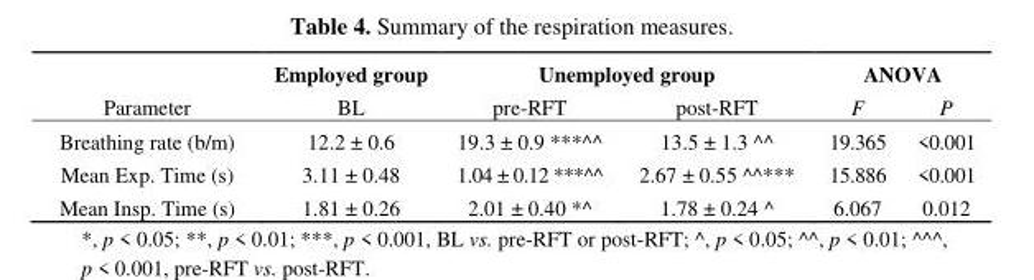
<table><thead><tr><td rowspan="2">Parameter</td><td rowspan="2">Employed group BL</td><td colspan="2">Unemployed group</td><td colspan="2">ANOVA</td></tr><tr><td>pre-RFT</td><td>post-RFT</td><td>F</td><td>P</td></tr></thead><tbody><tr><td>Breathing rate (b/m)</td><td>12.2 ± 0.6</td><td>19.3 ± 0.9 ***∧∧</td><td>13.5 ± 1.3 ∧∧</td><td>19.365</td><td>&lt;0.001</td></tr><tr><td>Mean Exp. Time (s)</td><td>3.11 ± 0.48</td><td>1.04 ± 0.12 ***∧∧</td><td>2.67 ± 0.55 ∧∧***</td><td>15.886</td><td>&lt;0.001</td></tr><tr><td>Mean Insp. Time (s)</td><td>1.81 ± 0.26</td><td>2.01 ± 0.40 *∧</td><td>1.78 ± 0.24 ∧</td><td>6.067</td><td>0.012</td></tr></tbody></table>